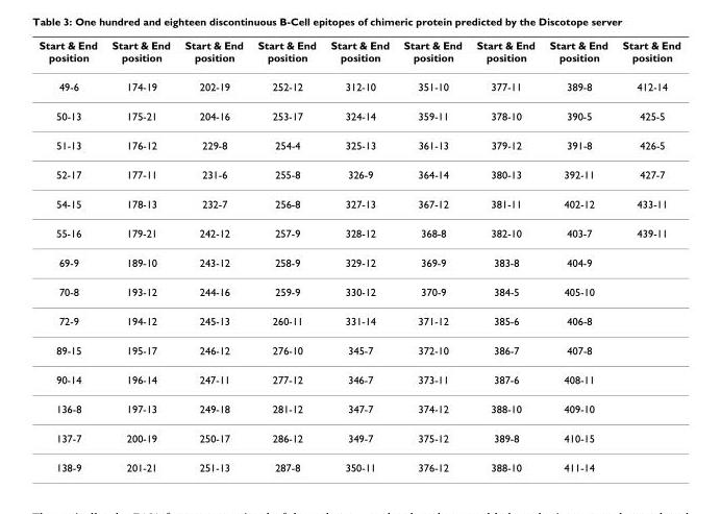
<table><thead><tr><td>Start &amp; End position</td><td>Start &amp; End position</td><td>Start &amp; End position</td><td>Start &amp; End position</td><td>Start &amp; End position</td><td>Start &amp; End position</td><td>Start &amp; End position</td><td>Start &amp; End position</td><td>Start &amp; End position</td></tr></thead><tbody><tr><td>49-6</td><td>174-19</td><td>202-19</td><td>252-12</td><td>312-10</td><td>351-10</td><td>377-11</td><td>389-8</td><td>412-14</td></tr><tr><td>50-13</td><td>175-21</td><td>204-16</td><td>253-17</td><td>324-14</td><td>359-11</td><td>378-10</td><td>390-5</td><td>425-5</td></tr><tr><td>51-13</td><td>176-12</td><td>229-8</td><td>254-4</td><td>325-13</td><td>361-13</td><td>379-12</td><td>391-8</td><td>426-5</td></tr><tr><td>52-17</td><td>177-11</td><td>231-6</td><td>255-8</td><td>326-9</td><td>364-14</td><td>380-13</td><td>392-11</td><td>427-7</td></tr><tr><td>54-15</td><td>178-13</td><td>232-7</td><td>256-8</td><td>327-13</td><td>367-12</td><td>381-11</td><td>402-12</td><td>433-11</td></tr><tr><td>55-16</td><td>179-21</td><td>242-12</td><td>257-9</td><td>328-12</td><td>368-8</td><td>382-10</td><td>403-7</td><td>439-11</td></tr><tr><td>69-9</td><td>189-10</td><td>243-12</td><td>258-9</td><td>329-12</td><td>369-9</td><td>383-8</td><td>404-9</td><td></td></tr><tr><td>70-8</td><td>193-12</td><td>244-16</td><td>259-9</td><td>330-12</td><td>370-9</td><td>384-5</td><td>405-10</td><td></td></tr><tr><td>72-9</td><td>194-12</td><td>245-13</td><td>260-11</td><td>331-14</td><td>371-12</td><td>385-6</td><td>406-8</td><td></td></tr><tr><td>89-15</td><td>195-17</td><td>246-12</td><td>276-10</td><td>345-7</td><td>372-10</td><td>386-7</td><td>407-8</td><td></td></tr><tr><td>90-14</td><td>196-14</td><td>247-11</td><td>277-12</td><td>346-7</td><td>373-11</td><td>387-6</td><td>408-11</td><td></td></tr><tr><td>136-8</td><td>197-13</td><td>249-18</td><td>281-12</td><td>347-7</td><td>374-12</td><td>388-10</td><td>409-10</td><td></td></tr><tr><td>137-7</td><td>200-19</td><td>250-17</td><td>286-12</td><td>349-7</td><td>375-12</td><td>389-8</td><td>410-15</td><td></td></tr><tr><td>138-9</td><td>201-21</td><td>251-13</td><td>287-8</td><td>350-11</td><td>376-12</td><td>388-10</td><td>411-14</td><td></td></tr></tbody></table>